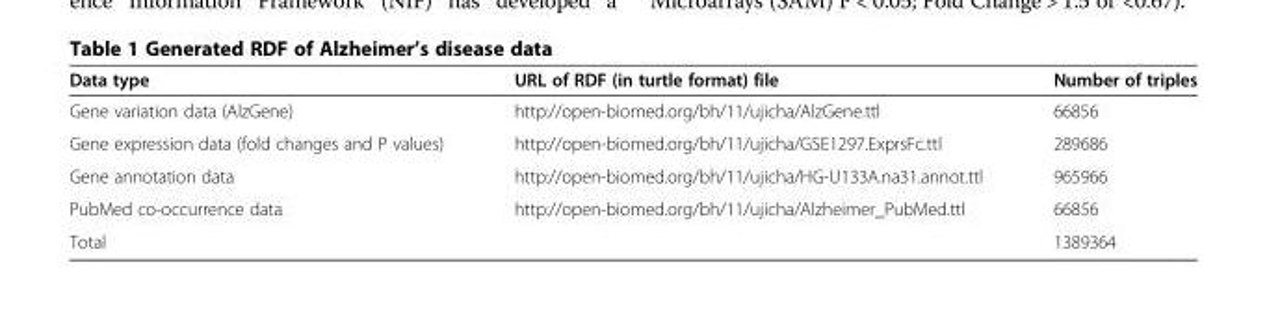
<table><thead><tr><td>Data type</td><td>URL of RDF (in turtle format) file</td><td>Number of triples</td></tr></thead><tbody><tr><td>Gene variation data (AlzGene)</td><td>http://open-biomed.org/bh/11/ujicha/AlzGene.ttl</td><td>66856</td></tr><tr><td>Gene expression data (fold changes and P values)</td><td>http://open-biomed.org/bh/11/ujicha/GSE1297.ExprsFc.ttl</td><td>289686</td></tr><tr><td>Gene annotation data</td><td>http://open-biomed.org/bh/11/ujicha/HG-U133A.na31.annot.ttl</td><td>965966</td></tr><tr><td>PubMed co-occurrence data</td><td>http://open-biomed.org/bh/11/ujicha/Alzheimer_PubMed.ttl</td><td>66856</td></tr><tr><td>Total</td><td></td><td>1389364</td></tr></tbody></table>